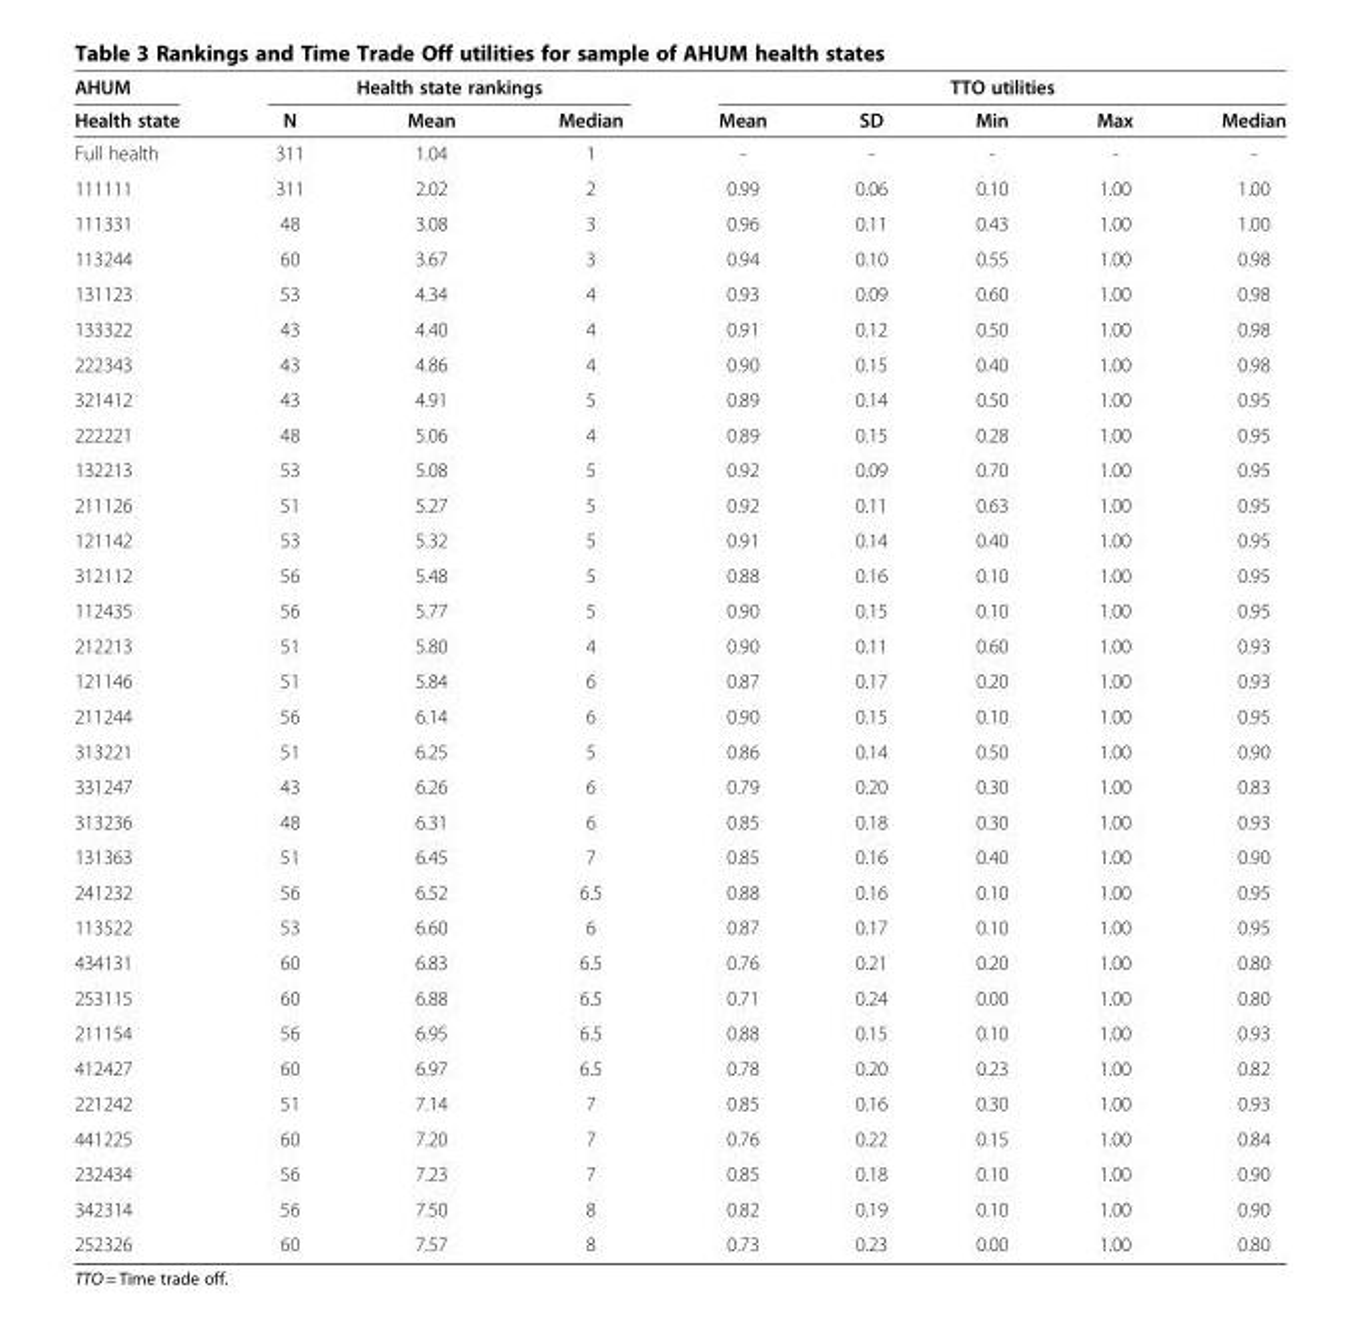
<table><thead><tr><td rowspan="2">AHUM Health state</td><td colspan="3">Health state rankings</td><td colspan="5">TTO utilities</td></tr><tr><td>N</td><td>Mean</td><td>Median</td><td>Mean</td><td>SD</td><td>Min</td><td>Max</td><td>Median</td></tr></thead><tbody><tr><td>Full health</td><td>311</td><td>1.04</td><td>1</td><td>-</td><td>-</td><td>-</td><td>-</td><td>-</td></tr><tr><td>111111</td><td>311</td><td>2.02</td><td>2</td><td>0.99</td><td>0.06</td><td>0.10</td><td>1.00</td><td>1.00</td></tr><tr><td>111331</td><td>48</td><td>3.08</td><td>3</td><td>0.96</td><td>0.11</td><td>0.43</td><td>1.00</td><td>1.00</td></tr><tr><td>113244</td><td>60</td><td>3.67</td><td>3</td><td>0.94</td><td>0.10</td><td>0.55</td><td>1.00</td><td>0.98</td></tr><tr><td>131123</td><td>53</td><td>4.34</td><td>4</td><td>0.93</td><td>0.09</td><td>0.60</td><td>1.00</td><td>0.98</td></tr><tr><td>133322</td><td>43</td><td>4.40</td><td>4</td><td>0.91</td><td>0.12</td><td>0.50</td><td>1.00</td><td>0.98</td></tr><tr><td>222343</td><td>43</td><td>4.86</td><td>4</td><td>0.90</td><td>0.15</td><td>0.40</td><td>1.00</td><td>0.98</td></tr><tr><td>321412</td><td>43</td><td>4.91</td><td>5</td><td>0.89</td><td>0.14</td><td>0.50</td><td>1.00</td><td>0.95</td></tr><tr><td>222221</td><td>48</td><td>5.06</td><td>4</td><td>0.89</td><td>0.15</td><td>0.28</td><td>1.00</td><td>0.95</td></tr><tr><td>132213</td><td>53</td><td>5.08</td><td>5</td><td>0.92</td><td>0.09</td><td>0.70</td><td>1.00</td><td>0.95</td></tr><tr><td>211126</td><td>51</td><td>5.27</td><td>5</td><td>0.92</td><td>0.11</td><td>0.63</td><td>1.00</td><td>0.95</td></tr><tr><td>121142</td><td>53</td><td>5.32</td><td>5</td><td>0.91</td><td>0.14</td><td>0.40</td><td>1.00</td><td>0.95</td></tr><tr><td>312112</td><td>56</td><td>5.48</td><td>5</td><td>0.88</td><td>0.16</td><td>0.10</td><td>1.00</td><td>0.95</td></tr><tr><td>112435</td><td>56</td><td>5.77</td><td>5</td><td>0.90</td><td>0.15</td><td>0.10</td><td>1.00</td><td>0.95</td></tr><tr><td>212213</td><td>51</td><td>5.80</td><td>4</td><td>0.90</td><td>0.11</td><td>0.60</td><td>1.00</td><td>0.93</td></tr><tr><td>121146</td><td>51</td><td>5.84</td><td>6</td><td>0.87</td><td>0.17</td><td>0.20</td><td>1.00</td><td>0.93</td></tr><tr><td>211244</td><td>56</td><td>6.14</td><td>6</td><td>0.90</td><td>0.15</td><td>0.10</td><td>1.00</td><td>0.95</td></tr><tr><td>313221</td><td>51</td><td>6.25</td><td>5</td><td>0.86</td><td>0.14</td><td>0.50</td><td>1.00</td><td>0.90</td></tr><tr><td>331247</td><td>43</td><td>6.26</td><td>6</td><td>0.79</td><td>0.20</td><td>0.30</td><td>1.00</td><td>0.83</td></tr><tr><td>313236</td><td>48</td><td>6.31</td><td>6</td><td>0.85</td><td>0.18</td><td>0.30</td><td>1.00</td><td>0.93</td></tr><tr><td>131363</td><td>51</td><td>6.45</td><td>7</td><td>0.85</td><td>0.16</td><td>0.40</td><td>1.00</td><td>0.90</td></tr><tr><td>241232</td><td>56</td><td>6.52</td><td>6.5</td><td>0.88</td><td>0.16</td><td>0.10</td><td>1.00</td><td>0.95</td></tr><tr><td>113522</td><td>53</td><td>6.60</td><td>6</td><td>0.87</td><td>0.17</td><td>0.10</td><td>1.00</td><td>0.95</td></tr><tr><td>434131</td><td>60</td><td>6.83</td><td>6.5</td><td>0.76</td><td>0.21</td><td>0.20</td><td>1.00</td><td>0.80</td></tr><tr><td>253115</td><td>60</td><td>6.88</td><td>6.5</td><td>0.71</td><td>0.24</td><td>0.00</td><td>1.00</td><td>0.80</td></tr><tr><td>211154</td><td>56</td><td>6.95</td><td>6.5</td><td>0.88</td><td>0.15</td><td>0.10</td><td>1.00</td><td>0.93</td></tr><tr><td>412427</td><td>60</td><td>6.97</td><td>6.5</td><td>0.78</td><td>0.20</td><td>0.23</td><td>1.00</td><td>0.82</td></tr><tr><td>221242</td><td>51</td><td>7.14</td><td>7</td><td>0.85</td><td>0.16</td><td>0.30</td><td>1.00</td><td>0.93</td></tr><tr><td>441225</td><td>60</td><td>7.20</td><td>7</td><td>0.76</td><td>0.22</td><td>0.15</td><td>1.00</td><td>0.84</td></tr><tr><td>232434</td><td>56</td><td>7.23</td><td>7</td><td>0.85</td><td>0.18</td><td>0.10</td><td>1.00</td><td>0.90</td></tr><tr><td>342314</td><td>56</td><td>7.50</td><td>8</td><td>0.82</td><td>0.19</td><td>0.10</td><td>1.00</td><td>0.90</td></tr><tr><td>252326</td><td>60</td><td>7.57</td><td>8</td><td>0.73</td><td>0.23</td><td>0.00</td><td>1.00</td><td>0.80</td></tr></tbody></table>